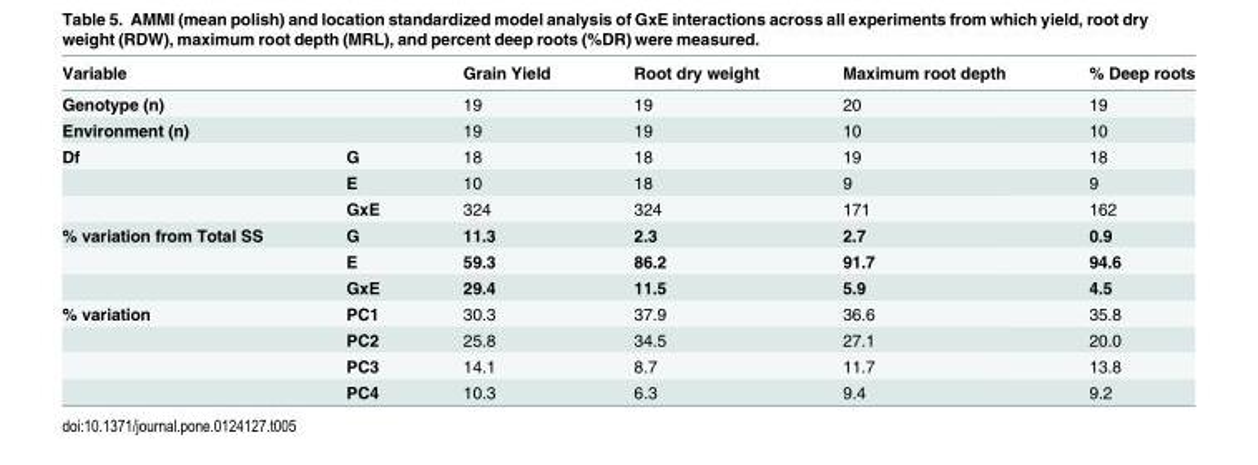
<table><thead><tr><td>Variable</td><td></td><td>Grain Yield</td><td>Root dry weight</td><td>Maximum root depth</td><td>% Deep roots</td></tr></thead><tbody><tr><td>Genotype (n)</td><td></td><td>19</td><td>19</td><td>20</td><td>19</td></tr><tr><td>Environment (n)</td><td></td><td>19</td><td>19</td><td>10</td><td>10</td></tr><tr><td rowspan="3">Df</td><td>G</td><td>18</td><td>18</td><td>19</td><td>18</td></tr><tr><td>E</td><td>10</td><td>18</td><td>9</td><td>9</td></tr><tr><td>GxE</td><td>324</td><td>324</td><td>171</td><td>162</td></tr><tr><td rowspan="3">% variation from Total SS</td><td>G</td><td>11.3</td><td>2.3</td><td>2.7</td><td>0.9</td></tr><tr><td>E</td><td>59.3</td><td>86.2</td><td>91.7</td><td>94.6</td></tr><tr><td>GxE</td><td>29.4</td><td>11.5</td><td>5.9</td><td>4.5</td></tr><tr><td rowspan="4">% variation</td><td>PC1</td><td>30.3</td><td>37.9</td><td>36.6</td><td>35.8</td></tr><tr><td>PC2</td><td>25.8</td><td>34.5</td><td>27.1</td><td>20.0</td></tr><tr><td>PC3</td><td>14.1</td><td>8.7</td><td>11.7</td><td>13.8</td></tr><tr><td>PC4</td><td>10.3</td><td>6.3</td><td>9.4</td><td>9.2</td></tr></tbody></table>